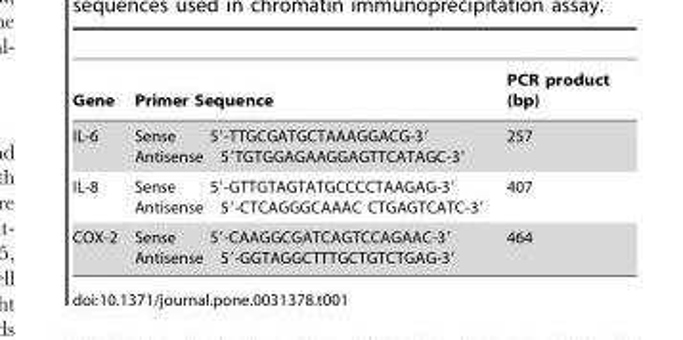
<table><thead><tr><td>Gene</td><td>Primer Sequence</td><td>PCR product (bp)</td></tr></thead><tbody><tr><td>IL-6</td><td>Sense 5′-TTGCGATGCTAAAGGACG-3′ Antisense 5′TGTGGAGAAGGAGTTCATAGC-3′</td><td>257</td></tr><tr><td>IL-8</td><td>Sense 5′-GTTGTAGTATGCCCCTAAGAG-3′ Antisense 5′-CTCAGGGCAAAC CTGAGTCATC-3′</td><td>407</td></tr><tr><td>COX-2</td><td>Sense 5′-CAAGGCGATCAGTCCAGAAC-3′ Antisense 5′-GGTAGGCTTTGCTGTCTGAG-3′</td><td>464</td></tr></tbody></table>